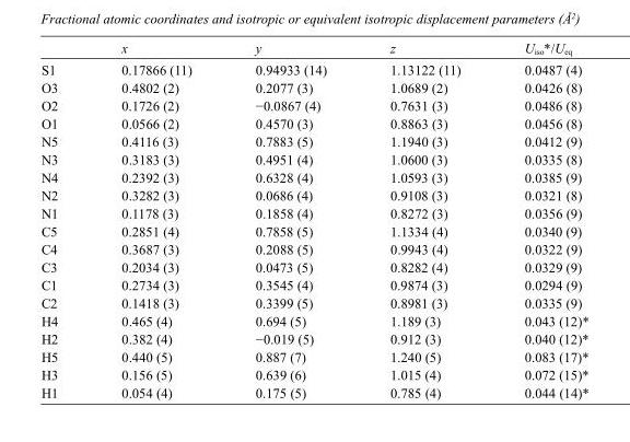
<table><thead><tr><td></td><td>x</td><td>y</td><td>z</td><td>U<sub>iso</sub>*/U<sub>eq</sub></td></tr></thead><tbody><tr><td>S1</td><td>0.17866 (11)</td><td>0.94933 (14)</td><td>1.13122 (11)</td><td>0.0487 (4)</td></tr><tr><td>O3</td><td>0.4802 (2)</td><td>0.2077 (3)</td><td>1.0689 (2)</td><td>0.0426 (8)</td></tr><tr><td>O2</td><td>0.1726 (2)</td><td>−0.0867 (4)</td><td>0.7631 (3)</td><td>0.0486 (8)</td></tr><tr><td>O1</td><td>0.0566 (2)</td><td>0.4570 (3)</td><td>0.8863 (3)</td><td>0.0456 (8)</td></tr><tr><td>N5</td><td>0.4116 (3)</td><td>0.7883 (5)</td><td>1.1940 (3)</td><td>0.0412 (9)</td></tr><tr><td>N3</td><td>0.3183 (3)</td><td>0.4951 (4)</td><td>1.0600 (3)</td><td>0.0335 (8)</td></tr><tr><td>N4</td><td>0.2392 (3)</td><td>0.6328 (4)</td><td>1.0593 (3)</td><td>0.0385 (9)</td></tr><tr><td>N2</td><td>0.3282 (3)</td><td>0.0686 (4)</td><td>0.9108 (3)</td><td>0.0321 (8)</td></tr><tr><td>N1</td><td>0.1178 (3)</td><td>0.1858 (4)</td><td>0.8272 (3)</td><td>0.0356 (9)</td></tr><tr><td>C5</td><td>0.2851 (4)</td><td>0.7858 (5)</td><td>1.1334 (4)</td><td>0.0340 (9)</td></tr><tr><td>C4</td><td>0.3687 (3)</td><td>0.2088 (5)</td><td>0.9943 (4)</td><td>0.0322 (9)</td></tr><tr><td>C3</td><td>0.2034 (3)</td><td>0.0473 (5)</td><td>0.8282 (4)</td><td>0.0329 (9)</td></tr><tr><td>C1</td><td>0.2734 (3)</td><td>0.3545 (4)</td><td>0.9874 (3)</td><td>0.0294 (9)</td></tr><tr><td>C2</td><td>0.1418 (3)</td><td>0.3399 (5)</td><td>0.8981 (3)</td><td>0.0335 (9)</td></tr><tr><td>H4</td><td>0.465 (4)</td><td>0.694 (5)</td><td>1.189 (3)</td><td>0.043 (12)*</td></tr><tr><td>H2</td><td>0.382 (4)</td><td>−0.019 (5)</td><td>0.912 (3)</td><td>0.040 (12)*</td></tr><tr><td>H5</td><td>0.440 (5)</td><td>0.887 (7)</td><td>1.240 (5)</td><td>0.083 (17)*</td></tr><tr><td>H3</td><td>0.156 (5)</td><td>0.639 (6)</td><td>1.015 (4)</td><td>0.072 (15)*</td></tr><tr><td>H1</td><td>0.054 (4)</td><td>0.175 (5)</td><td>0.785 (4)</td><td>0.044 (14)*</td></tr></tbody></table>